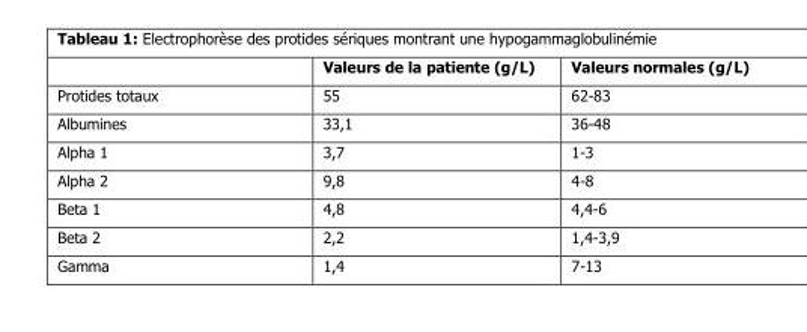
<table><thead><tr><td></td><td>Valeurs de la patiente (g/L)</td><td>Valeurs normales (g/L)</td></tr></thead><tbody><tr><td>Protides totaux</td><td>55</td><td>62-83</td></tr><tr><td>Albumines</td><td>33,1</td><td>36-48</td></tr><tr><td>Alpha 1</td><td>3,7</td><td>1-3</td></tr><tr><td>Alpha 2</td><td>9,8</td><td>4-8</td></tr><tr><td>Beta 1</td><td>4,8</td><td>4,4-6</td></tr><tr><td>Beta 2</td><td>2,2</td><td>1,4-3,9</td></tr><tr><td>Gamma</td><td>1,4</td><td>7-13</td></tr></tbody></table>